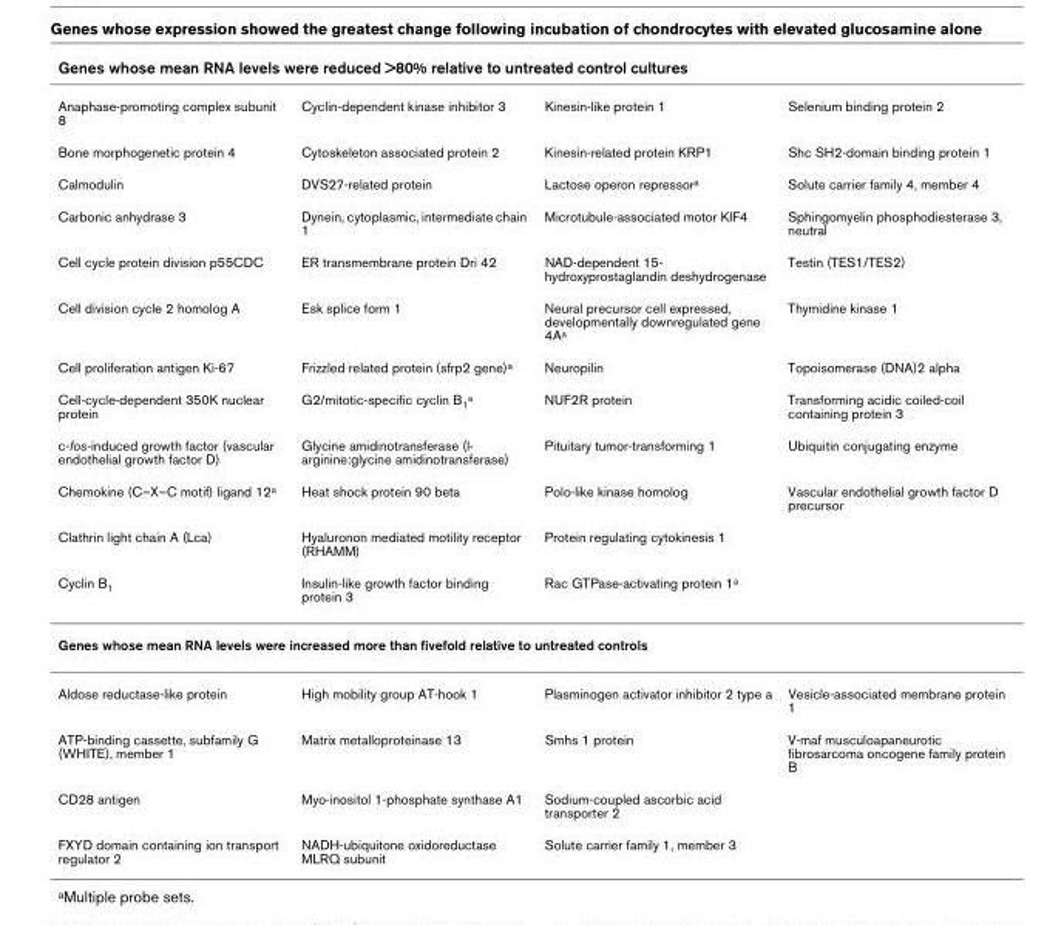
<table><thead><tr><td colspan="4">Genes whose mean RNA levels were reduced &gt;80% relative to untreated control cultures</td></tr><tr><td>Anaphase-promoting complex subunit 8</td><td>Cyclin-dependent kinase inhibitor 3</td><td>Kinesin-like protein 1</td><td>Selenium binding protein 2</td></tr></thead><tbody><tr><td>Bone morphogenetic protein 4</td><td>Cytoskeleton associated protein 2</td><td>Kinesin-related protein KRP1</td><td>Shc SH2-domain binding protein 1</td></tr><tr><td>Calmodulin</td><td>DVS27-related protein</td><td>Lactose operon repressora</td><td>Solute carrier family 4, member 4</td></tr><tr><td>Carbonic anhydrase 3</td><td>Dynein, cytoplasmic, intermediate chain 1</td><td>Microtubule-associated motor KIF4</td><td>Sphingomyelin phosphodiesterase 3, neutral</td></tr><tr><td>Cell cycle protein division p55CDC</td><td>ER transmembrane protein Dri 42</td><td>NAD-dependent 15- hydroxyprostaglandin deshydrogenase</td><td>Testin (TES1/TES2)</td></tr><tr><td>Cell division cycle 2 homolog A</td><td>Esk splice form 1</td><td>Neural precursor cell expressed, developmentally downregulated gene 4Aa</td><td>Thymidine kinase 1</td></tr><tr><td>Cell proliferation antigen Ki-67</td><td>Frizzled related protein (sfrp2 gene)a</td><td>Neuropilin</td><td>Topoisomerase (DNA)2 alpha</td></tr><tr><td>Cell-cycle-dependent 350K nuclear protein</td><td>G2/mitotic-specific cyclin B1a</td><td>NUF2R protein</td><td>Transforming acidic coiled-coil containing protein 3</td></tr><tr><td>c-fos-induced growth factor (vascular endothelial growth factor D)</td><td>Glycine amidinotransferase (l- arginine:glycine amidinotransferase)</td><td>Pituitary tumor-transforming 1</td><td>Ubiquitin conjugating enzyme</td></tr><tr><td>Chemokine (C–X–C motif) ligand 12a</td><td>Heat shock protein 90 beta</td><td>Polo-like kinase homolog</td><td>Vascular endothelial growth factor D precursor</td></tr><tr><td>Clathrin light chain A (Lca)</td><td>Hyaluronon mediated motility receptor (RHAMM)</td><td>Protein regulating cytokinesis 1</td><td></td></tr><tr><td>Cyclin B1</td><td>Insulin-like growth factor binding protein 3</td><td>Rac GTPase-activating protein 1a</td><td></td></tr><tr><td colspan="4">Genes whose mean RNA levels were increased more than fivefold relative to untreated controls</td></tr><tr><td>Aldose reductase-like protein</td><td>High mobility group AT-hook 1</td><td>Plasminogen activator inhibitor 2 type a</td><td>Vesicle-associated membrane protein 1</td></tr><tr><td>ATP-binding cassette, subfamily G (WHITE), member 1</td><td>Matrix metalloproteinase 13</td><td>Smhs 1 protein</td><td>V-maf musculoapaneurotic fibrosarcoma oncogene family protein B</td></tr><tr><td>CD28 antigen</td><td>Myo-inositol 1-phosphate synthase A1</td><td>Sodium-coupled ascorbic acid transporter 2</td><td></td></tr><tr><td>FXYD domain containing ion transport regulator 2</td><td>NADH-ubiquitone oxidoreductase MLRQ subunit</td><td>Solute carrier family 1, member 3</td><td></td></tr></tbody></table>